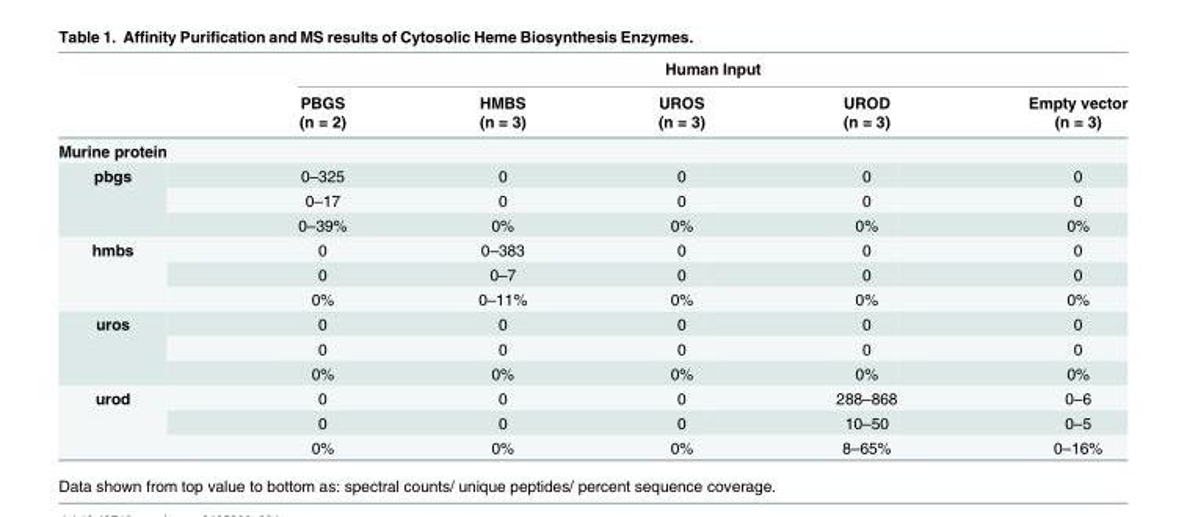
<table><thead><tr><td rowspan="3"></td><td colspan="5">Human Input</td></tr><tr><td rowspan="2">PBGS (n = 2)</td><td rowspan="2">HMBS (n = 3)</td><td rowspan="2">UROS (n = 3)</td><td rowspan="2">UROD (n = 3)</td><td rowspan="2">Empty vector (n = 3)</td></tr><tr></tr></thead><tbody><tr><td colspan="6">Murine protein</td></tr><tr><td rowspan="3">pbgs</td><td>0–325</td><td>0</td><td>0</td><td>0</td><td>0</td></tr><tr><td>0–17</td><td>0</td><td>0</td><td>0</td><td>0</td></tr><tr><td>0–39%</td><td>0%</td><td>0%</td><td>0%</td><td>0%</td></tr><tr><td rowspan="3">hmbs</td><td>0</td><td>0–383</td><td>0</td><td>0</td><td>0</td></tr><tr><td>0</td><td>0–7</td><td>0</td><td>0</td><td>0</td></tr><tr><td>0%</td><td>0–11%</td><td>0%</td><td>0%</td><td>0%</td></tr><tr><td rowspan="3">uros</td><td>0</td><td>0</td><td>0</td><td>0</td><td>0</td></tr><tr><td>0</td><td>0</td><td>0</td><td>0</td><td>0</td></tr><tr><td>0%</td><td>0%</td><td>0%</td><td>0%</td><td>0%</td></tr><tr><td rowspan="3">urod</td><td>0</td><td>0</td><td>0</td><td>288–868</td><td>0–6</td></tr><tr><td>0</td><td>0</td><td>0</td><td>10–50</td><td>0–5</td></tr><tr><td>0%</td><td>0%</td><td>0%</td><td>8–65%</td><td>0–16%</td></tr></tbody></table>